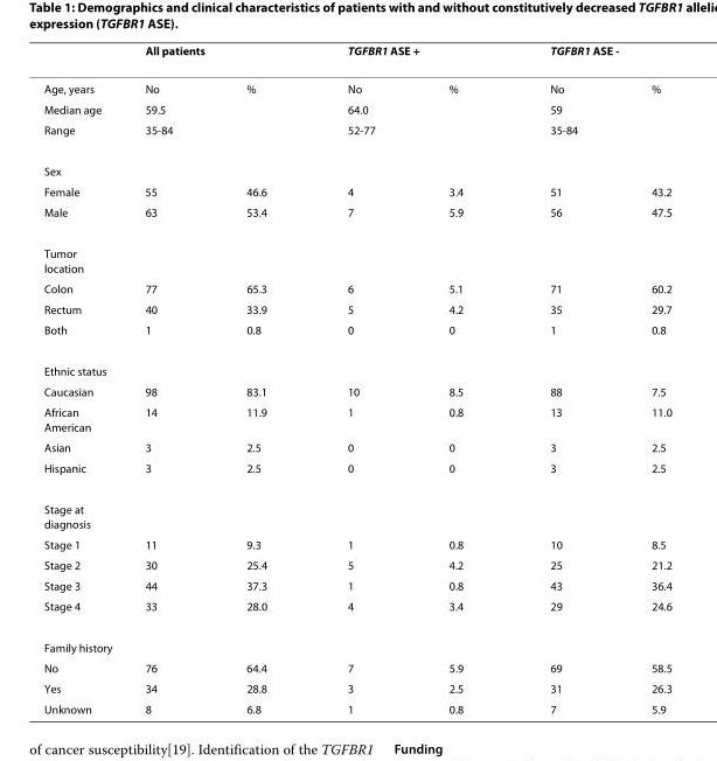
<table><thead><tr><td rowspan="2">Age, years</td><td colspan="2">All patients</td><td colspan="2">TGFBR1 ASE +</td><td colspan="2">TGFBR1 ASE -</td></tr><tr><td>No</td><td>%</td><td>No</td><td>%</td><td>No</td><td>%</td></tr></thead><tbody><tr><td>Median age</td><td>59.5</td><td></td><td>64.0</td><td></td><td>59</td><td></td></tr><tr><td>Range</td><td>35-84</td><td></td><td>52-77</td><td></td><td>35-84</td><td></td></tr><tr><td colspan="7">Sex</td></tr><tr><td>Female</td><td>55</td><td>46.6</td><td>4</td><td>3.4</td><td>51</td><td>43.2</td></tr><tr><td>Male</td><td>63</td><td>53.4</td><td>7</td><td>5.9</td><td>56</td><td>47.5</td></tr><tr><td colspan="7">Tumor location</td></tr><tr><td>Colon</td><td>77</td><td>65.3</td><td>6</td><td>5.1</td><td>71</td><td>60.2</td></tr><tr><td>Rectum</td><td>40</td><td>33.9</td><td>5</td><td>4.2</td><td>35</td><td>29.7</td></tr><tr><td>Both</td><td>1</td><td>0.8</td><td>0</td><td>0</td><td>1</td><td>0.8</td></tr><tr><td colspan="7">Ethnic status</td></tr><tr><td>Caucasian</td><td>98</td><td>83.1</td><td>10</td><td>8.5</td><td>88</td><td>7.5</td></tr><tr><td>African American</td><td>14</td><td>11.9</td><td>1</td><td>0.8</td><td>13</td><td>11.0</td></tr><tr><td>Asian</td><td>3</td><td>2.5</td><td>0</td><td>0</td><td>3</td><td>2.5</td></tr><tr><td>Hispanic</td><td>3</td><td>2.5</td><td>0</td><td>0</td><td>3</td><td>2.5</td></tr><tr><td colspan="7">Stage at diagnosis</td></tr><tr><td>Stage 1</td><td>11</td><td>9.3</td><td>1</td><td>0.8</td><td>10</td><td>8.5</td></tr><tr><td>Stage 2</td><td>30</td><td>25.4</td><td>5</td><td>4.2</td><td>25</td><td>21.2</td></tr><tr><td>Stage 3</td><td>44</td><td>37.3</td><td>1</td><td>0.8</td><td>43</td><td>36.4</td></tr><tr><td>Stage 4</td><td>33</td><td>28.0</td><td>4</td><td>3.4</td><td>29</td><td>24.6</td></tr><tr><td colspan="7">Family history</td></tr><tr><td>No</td><td>76</td><td>64.4</td><td>7</td><td>5.9</td><td>69</td><td>58.5</td></tr><tr><td>Yes</td><td>34</td><td>28.8</td><td>3</td><td>2.5</td><td>31</td><td>26.3</td></tr><tr><td>Unknown</td><td>8</td><td>6.8</td><td>1</td><td>0.8</td><td>7</td><td>5.9</td></tr></tbody></table>